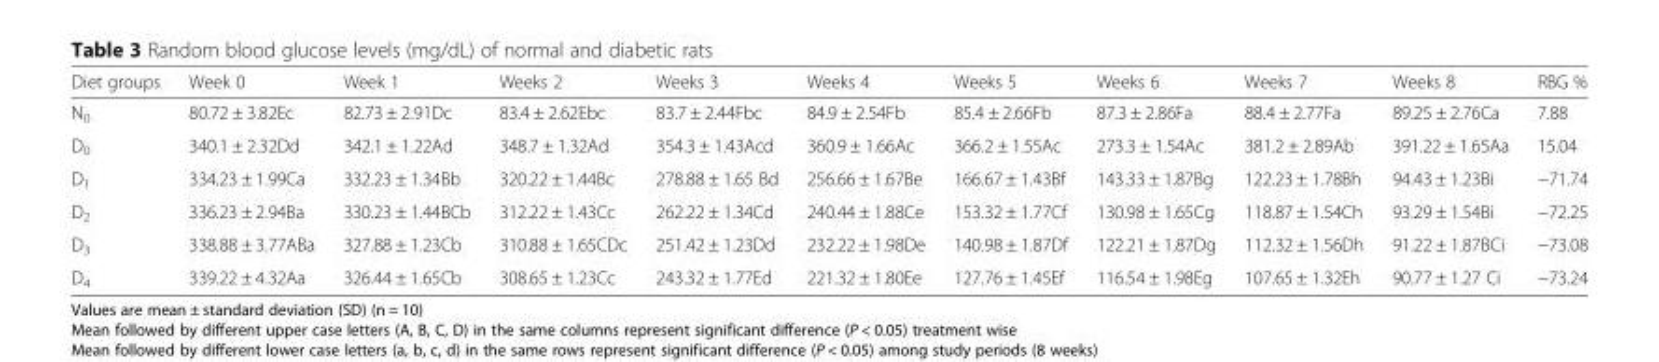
<table><thead><tr><td>Diet groups</td><td>Week 0</td><td>Week 1</td><td>Weeks 2</td><td>Weeks 3</td><td>Weeks 4</td><td>Weeks 5</td><td>Weeks 6</td><td>Weeks 7</td><td>Weeks 8</td><td>RBG %</td></tr></thead><tbody><tr><td>N<sub>0</sub></td><td>80.72 ± 3.82Ec</td><td>82.73 ± 2.91Dc</td><td>83.4 ± 2.62Ebc</td><td>83.7 ± 2.44Fbc</td><td>84.9 ± 2.54Fb</td><td>85.4 ± 2.66Fb</td><td>87.3 ± 2.86Fa</td><td>88.4 ± 2.77Fa</td><td>89.25 ± 2.76Ca</td><td>7.88</td></tr><tr><td>D<sub>0</sub></td><td>340.1 ± 2.32Dd</td><td>342.1 ± 1.22Ad</td><td>348.7 ± 1.32Ad</td><td>354.3 ± 1.43Acd</td><td>360.9 ± 1.66Ac</td><td>366.2 ± 1.55Ac</td><td>273.3 ± 1.54Ac</td><td>381.2 ± 2.89Ab</td><td>391.22 ± 1.65Aa</td><td>15.04</td></tr><tr><td>D<sub>1</sub></td><td>334.23 ± 1.99Ca</td><td>332.23 ± 1.34Bb</td><td>320.22 ± 1.44Bc</td><td>278.88 ± 1.65 Bd</td><td>256.66 ± 1.67Be</td><td>166.67 ± 1.43Bf</td><td>143.33 ± 1.87Bg</td><td>122.23 ± 1.78Bh</td><td>94.43 ± 1.23Bi</td><td>−71.74</td></tr><tr><td>D<sub>2</sub></td><td>336.23 ± 2.94Ba</td><td>330.23 ± 1.44BCb</td><td>312.22 ± 1.43Cc</td><td>262.22 ± 1.34Cd</td><td>240.44 ± 1.88Ce</td><td>153.32 ± 1.77Cf</td><td>130.98 ± 1.65Cg</td><td>118.87 ± 1.54Ch</td><td>93.29 ± 1.54Bi</td><td>−72.25</td></tr><tr><td>D<sub>3</sub></td><td>338.88 ± 3.77ABa</td><td>327.88 ± 1.23Cb</td><td>310.88 ± 1.65CDc</td><td>251.42 ± 1.23Dd</td><td>232.22 ± 1.98De</td><td>140.98 ± 1.87Df</td><td>122.21 ± 1.87Dg</td><td>112.32 ± 1.56Dh</td><td>91.22 ± 1.87BCi</td><td>−73.08</td></tr><tr><td>D<sub>4</sub></td><td>339.22 ± 4.32Aa</td><td>326.44 ± 1.65Cb</td><td>308.65 ± 1.23Cc</td><td>243.32 ± 1.77Ed</td><td>221.32 ± 1.80Ee</td><td>127.76 ± 1.45Ef</td><td>116.54 ± 1.98Eg</td><td>107.65 ± 1.32Eh</td><td>90.77 ± 1.27 Ci</td><td>−73.24</td></tr></tbody></table>